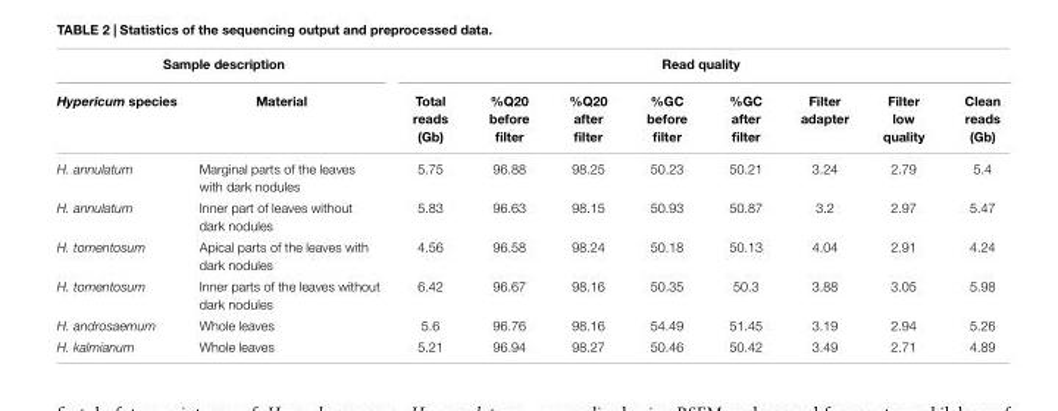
<table><thead><tr><td colspan="2">Sample description</td><td colspan="8">Read quality</td></tr><tr><td>Hypericum species</td><td>Material</td><td>Total reads (Gb)</td><td>%Q20 before filter</td><td>%Q20 after filter</td><td>%GC before filter</td><td>%GC after filter</td><td>Filter adapter</td><td>Filter low quality</td><td>Clean reads (Gb)</td></tr></thead><tbody><tr><td>H. annulatum</td><td>Marginal parts of the leaves with dark nodules</td><td>5.75</td><td>96.88</td><td>98.25</td><td>50.23</td><td>50.21</td><td>3.24</td><td>2.79</td><td>5.4</td></tr><tr><td>H. annulatum</td><td>Inner part of leaves without dark nodules</td><td>5.83</td><td>96.63</td><td>98.15</td><td>50.93</td><td>50.87</td><td>3.2</td><td>2.97</td><td>5.47</td></tr><tr><td>H. tomentosum</td><td>Apical parts of the leaves with dark nodules</td><td>4.56</td><td>96.58</td><td>98.24</td><td>50.18</td><td>50.13</td><td>4.04</td><td>2.91</td><td>4.24</td></tr><tr><td>H. tomentosum</td><td>Inner parts of the leaves without dark nodules</td><td>6.42</td><td>96.67</td><td>98.16</td><td>50.35</td><td>50.3</td><td>3.88</td><td>3.05</td><td>5.98</td></tr><tr><td>H. androsaemum</td><td>Whole leaves</td><td>5.6</td><td>96.76</td><td>98.16</td><td>54.49</td><td>51.45</td><td>3.19</td><td>2.94</td><td>5.26</td></tr><tr><td>H. kalmianum</td><td>Whole leaves</td><td>5.21</td><td>96.94</td><td>98.27</td><td>50.46</td><td>50.42</td><td>3.49</td><td>2.71</td><td>4.89</td></tr></tbody></table>